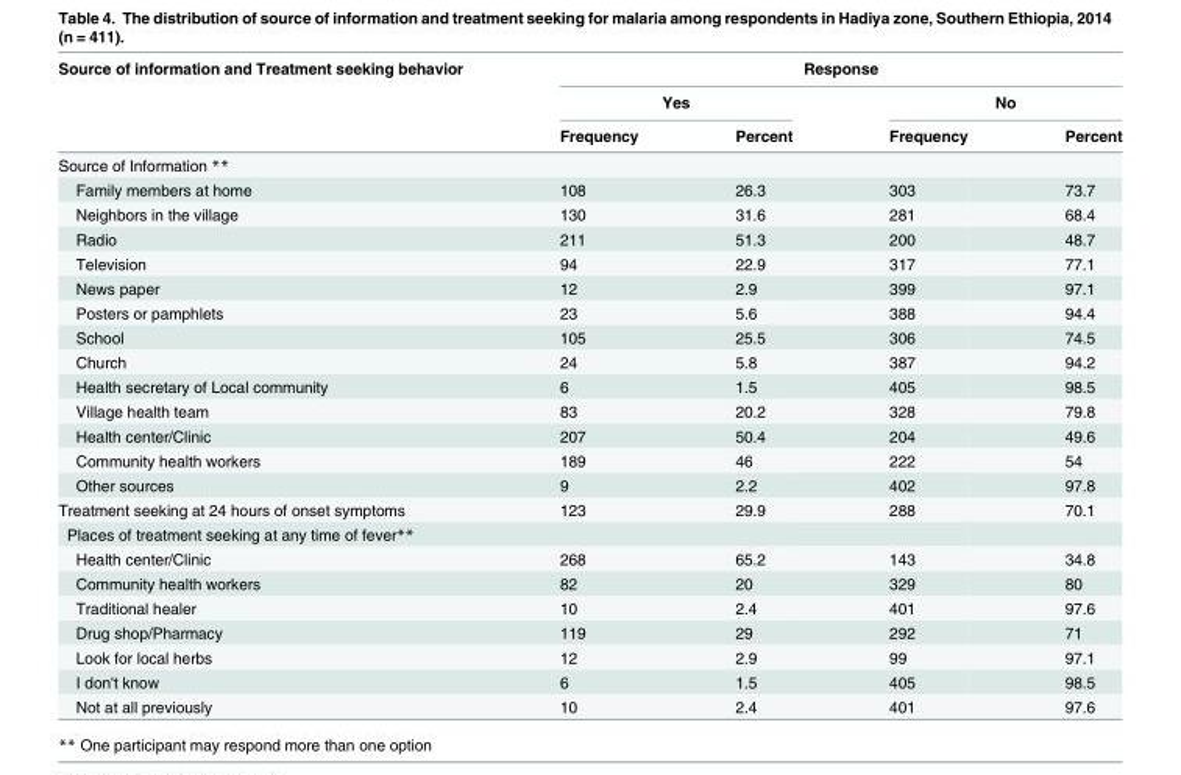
<table><thead><tr><td rowspan="3">Source of information and Treatment seeking behavior</td><td colspan="4">Response</td></tr><tr><td colspan="2">Yes</td><td colspan="2">No</td></tr><tr><td>Frequency</td><td>Percent</td><td>Frequency</td><td>Percent</td></tr></thead><tbody><tr><td colspan="5">Source of Information **</td></tr><tr><td>Family members at home</td><td>108</td><td>26.3</td><td>303</td><td>73.7</td></tr><tr><td>Neighbors in the village</td><td>130</td><td>31.6</td><td>281</td><td>68.4</td></tr><tr><td>Radio</td><td>211</td><td>51.3</td><td>200</td><td>48.7</td></tr><tr><td>Television</td><td>94</td><td>22.9</td><td>317</td><td>77.1</td></tr><tr><td>News paper</td><td>12</td><td>2.9</td><td>399</td><td>97.1</td></tr><tr><td>Posters or pamphlets</td><td>23</td><td>5.6</td><td>388</td><td>94.4</td></tr><tr><td>School</td><td>105</td><td>25.5</td><td>306</td><td>74.5</td></tr><tr><td>Church</td><td>24</td><td>5.8</td><td>387</td><td>94.2</td></tr><tr><td>Health secretary of Local community</td><td>6</td><td>1.5</td><td>405</td><td>98.5</td></tr><tr><td>Village health team</td><td>83</td><td>20.2</td><td>328</td><td>79.8</td></tr><tr><td>Health center/Clinic</td><td>207</td><td>50.4</td><td>204</td><td>49.6</td></tr><tr><td>Community health workers</td><td>189</td><td>46</td><td>222</td><td>54</td></tr><tr><td>Other sources</td><td>9</td><td>2.2</td><td>402</td><td>97.8</td></tr><tr><td>Treatment seeking at 24 hours of onset symptoms</td><td>123</td><td>29.9</td><td>288</td><td>70.1</td></tr><tr><td colspan="5">Places of treatment seeking at any time of fever**</td></tr><tr><td>Health center/Clinic</td><td>268</td><td>65.2</td><td>143</td><td>34.8</td></tr><tr><td>Community health workers</td><td>82</td><td>20</td><td>329</td><td>80</td></tr><tr><td>Traditional healer</td><td>10</td><td>2.4</td><td>401</td><td>97.6</td></tr><tr><td>Drug shop/Pharmacy</td><td>119</td><td>29</td><td>292</td><td>71</td></tr><tr><td>Look for local herbs</td><td>12</td><td>2.9</td><td>99</td><td>97.1</td></tr><tr><td>I don&#x27;t know</td><td>6</td><td>1.5</td><td>405</td><td>98.5</td></tr><tr><td>Not at all previously</td><td>10</td><td>2.4</td><td>401</td><td>97.6</td></tr></tbody></table>